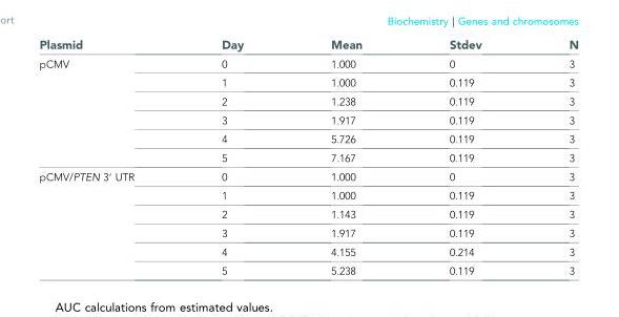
<table><thead><tr><td>Plasmid</td><td>Day</td><td>Mean</td><td>Stdev</td><td>N</td></tr></thead><tbody><tr><td rowspan="6">pCMV</td><td>0</td><td>1.000</td><td>0</td><td>3</td></tr><tr><td>1</td><td>1.000</td><td>0.119</td><td>3</td></tr><tr><td>2</td><td>1.238</td><td>0.119</td><td>3</td></tr><tr><td>3</td><td>1.917</td><td>0.119</td><td>3</td></tr><tr><td>4</td><td>5.726</td><td>0.119</td><td>3</td></tr><tr><td>5</td><td>7.167</td><td>0.119</td><td>3</td></tr><tr><td rowspan="6">pCMV/PTEN 3′ UTR</td><td>0</td><td>1.000</td><td>0</td><td>3</td></tr><tr><td>1</td><td>1.000</td><td>0.119</td><td>3</td></tr><tr><td>2</td><td>1.143</td><td>0.119</td><td>3</td></tr><tr><td>3</td><td>1.917</td><td>0.119</td><td>3</td></tr><tr><td>4</td><td>4.155</td><td>0.214</td><td>3</td></tr><tr><td>5</td><td>5.238</td><td>0.119</td><td>3</td></tr></tbody></table>